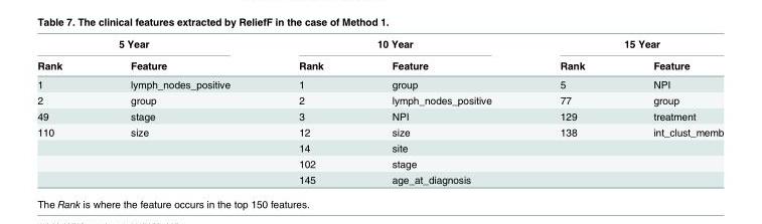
<table><thead><tr><td colspan="2">5 Year</td><td colspan="2">10 Year</td><td colspan="2">15 Year</td></tr><tr><td>Rank</td><td>Feature</td><td>Rank</td><td>Feature</td><td>Rank</td><td>Feature</td></tr></thead><tbody><tr><td>1</td><td>lymph_nodes_positive</td><td>1</td><td>group</td><td>5</td><td>NPI</td></tr><tr><td>2</td><td>group</td><td>2</td><td>lymph_nodes_positive</td><td>77</td><td>group</td></tr><tr><td>49</td><td>stage</td><td>3</td><td>NPI</td><td>129</td><td>treatment</td></tr><tr><td rowspan="4">110</td><td>size</td><td>12</td><td>size</td><td>138</td><td>int_clust_memb</td></tr><tr><td></td><td>14</td><td>site</td><td></td><td></td></tr><tr><td></td><td>102</td><td>stage</td><td></td><td></td></tr><tr><td></td><td>145</td><td>age_at_diagnosis</td><td></td><td></td></tr></tbody></table>